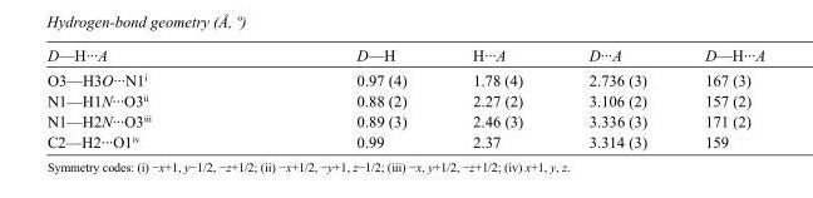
<table><tbody><tr><td>D—H···A</td><td>D—H</td><td>H···A</td><td>D···A</td><td>D—H···A</td></tr><tr><td>O3—H3O···N1<sup>i</sup></td><td>0.97 (4)</td><td>1.78 (4)</td><td>2.736 (3)</td><td>167 (3)</td></tr><tr><td>N1—H1N···O3<sup>ii</sup></td><td>0.88 (2)</td><td>2.27 (2)</td><td>3.106 (2)</td><td>157 (2)</td></tr><tr><td>N1—H2N···O3<sup>iii</sup></td><td>0.89 (3)</td><td>2.46 (3)</td><td>3.336 (3)</td><td>171 (2)</td></tr><tr><td>C2—H2···O1<sup>iv</sup></td><td>0.99</td><td>2.37</td><td>3.314 (3)</td><td>159</td></tr></tbody></table>